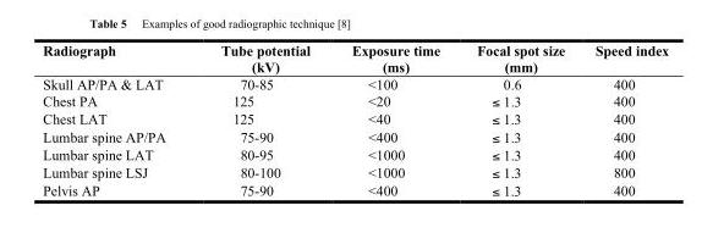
<table><thead><tr><td>Radiograph</td><td>Tube potential (kV)</td><td>Exposure time (ms)</td><td>Focal spot size (mm)</td><td>Speed index</td></tr></thead><tbody><tr><td>Skull AP/PA &amp; LAT</td><td>70-85</td><td>&lt;100</td><td>0.6</td><td>400</td></tr><tr><td>Chest PA</td><td>125</td><td>&lt;20</td><td>≤ 1.3</td><td>400</td></tr><tr><td>Chest LAT</td><td>125</td><td>&lt;40</td><td>≤ 1.3</td><td>400</td></tr><tr><td>Lumbar spine AP/PA</td><td>75-90</td><td>&lt;400</td><td>≤ 1.3</td><td>400</td></tr><tr><td>Lumbar spine LAT</td><td>80-95</td><td>&lt;1000</td><td>≤ 1.3</td><td>400</td></tr><tr><td>Lumbar spine LSJ</td><td>80-100</td><td>&lt;1000</td><td>≤ 1.3</td><td>800</td></tr><tr><td>Pelvis AP</td><td>75-90</td><td>&lt;400</td><td>≤ 1.3</td><td>400</td></tr></tbody></table>